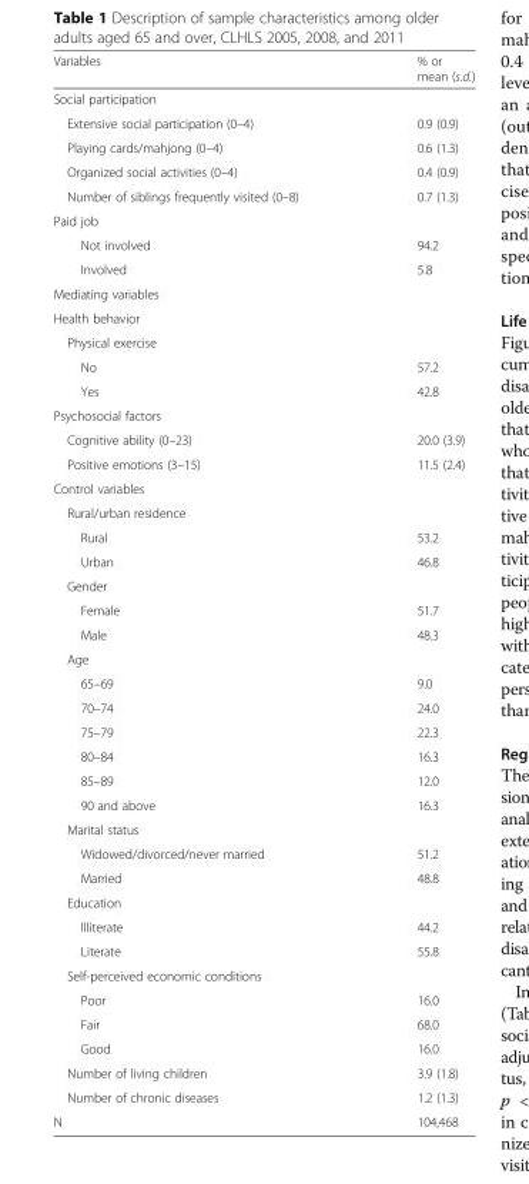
<table><thead><tr><td>Variables</td><td>% or mean (s.d.)</td></tr></thead><tbody><tr><td colspan="2">Social participation</td></tr><tr><td>Extensive social participation (0–4)</td><td>0.9 (0.9)</td></tr><tr><td>Playing cards/mahjong (0–4)</td><td>0.6 (1.3)</td></tr><tr><td>Organized social activities (0–4)</td><td>0.4 (0.9)</td></tr><tr><td>Number of siblings frequently visited (0–8)</td><td>0.7 (1.3)</td></tr><tr><td colspan="2">Paid job</td></tr><tr><td>Not involved</td><td>94.2</td></tr><tr><td>Involved</td><td>5.8</td></tr><tr><td colspan="2">Mediating variables</td></tr><tr><td colspan="2">Health behavior</td></tr><tr><td colspan="2">Physical exercise</td></tr><tr><td>No</td><td>57.2</td></tr><tr><td>Yes</td><td>42.8</td></tr><tr><td colspan="2">Psychosocial factors</td></tr><tr><td>Cognitive ability (0–23)</td><td>20.0 (3.9)</td></tr><tr><td>Positive emotions (3–15)</td><td>11.5 (2.4)</td></tr><tr><td colspan="2">Control variables</td></tr><tr><td colspan="2">Rural/urban residence</td></tr><tr><td>Rural</td><td>53.2</td></tr><tr><td>Urban</td><td>46.8</td></tr><tr><td colspan="2">Gender</td></tr><tr><td>Female</td><td>51.7</td></tr><tr><td>Male</td><td>48.3</td></tr><tr><td colspan="2">Age</td></tr><tr><td>65–69</td><td>9.0</td></tr><tr><td>70–74</td><td>24.0</td></tr><tr><td>75–79</td><td>22.3</td></tr><tr><td>80–84</td><td>16.3</td></tr><tr><td>85–89</td><td>12.0</td></tr><tr><td>90 and above</td><td>16.3</td></tr><tr><td colspan="2">Marital status</td></tr><tr><td>Widowed/divorced/never married</td><td>51.2</td></tr><tr><td>Married</td><td>48.8</td></tr><tr><td colspan="2">Education</td></tr><tr><td>Illiterate</td><td>44.2</td></tr><tr><td>Literate</td><td>55.8</td></tr><tr><td colspan="2">Self-perceived economic conditions</td></tr><tr><td>Poor</td><td>16.0</td></tr><tr><td>Fair</td><td>68.0</td></tr><tr><td>Good</td><td>16.0</td></tr><tr><td>Number of living children</td><td>3.9 (1.8)</td></tr><tr><td>Number of chronic diseases</td><td>1.2 (1.3)</td></tr><tr><td>N</td><td>104,468</td></tr></tbody></table>